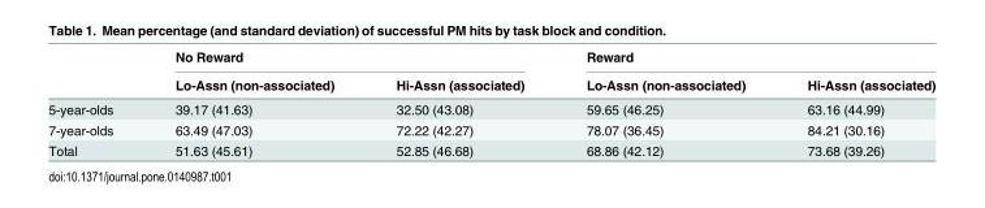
<table><thead><tr><td rowspan="2"></td><td colspan="2">No Reward</td><td colspan="2">Reward</td></tr><tr><td>Lo-Assn (non-associated)</td><td>Hi-Assn (associated)</td><td>Lo-Assn (non-associated)</td><td>Hi-Assn (associated)</td></tr></thead><tbody><tr><td>5-year-olds</td><td>39.17 (41.63)</td><td>32.50 (43.08)</td><td>59.65 (46.25)</td><td>63.16 (44.99)</td></tr><tr><td>7-year-olds</td><td>63.49 (47.03)</td><td>72.22 (42.27)</td><td>78.07 (36.45)</td><td>84.21 (30.16)</td></tr><tr><td>Total</td><td>51.63 (45.61)</td><td>52.85 (46.68)</td><td>68.86 (42.12)</td><td>73.68 (39.26)</td></tr></tbody></table>